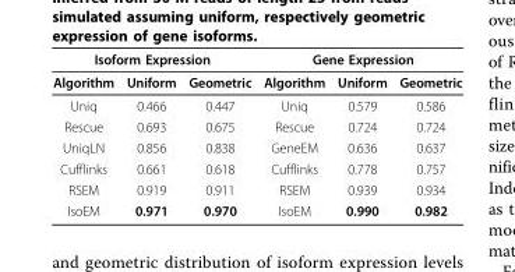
<table><thead><tr><td colspan="3">Isoform Expression</td><td colspan="3">Gene Expression</td></tr><tr><td>Algorithm</td><td>Uniform</td><td>Geometric</td><td>Algorithm</td><td>Uniform</td><td>Geometric</td></tr></thead><tbody><tr><td>Uniq</td><td>0.466</td><td>0.447</td><td>Uniq</td><td>0.579</td><td>0.586</td></tr><tr><td>Rescue</td><td>0.693</td><td>0.675</td><td>Rescue</td><td>0.724</td><td>0.724</td></tr><tr><td>UniqLN</td><td>0.856</td><td>0.838</td><td>GeneEM</td><td>0.636</td><td>0.637</td></tr><tr><td>Cufflinks</td><td>0.661</td><td>0.618</td><td>Cufflinks</td><td>0.778</td><td>0.757</td></tr><tr><td>RSEM</td><td>0.919</td><td>0.911</td><td>RSEM</td><td>0.939</td><td>0.934</td></tr><tr><td>IsoEM</td><td>0.971</td><td>0.970</td><td>IsoEM</td><td>0.990</td><td>0.982</td></tr></tbody></table>